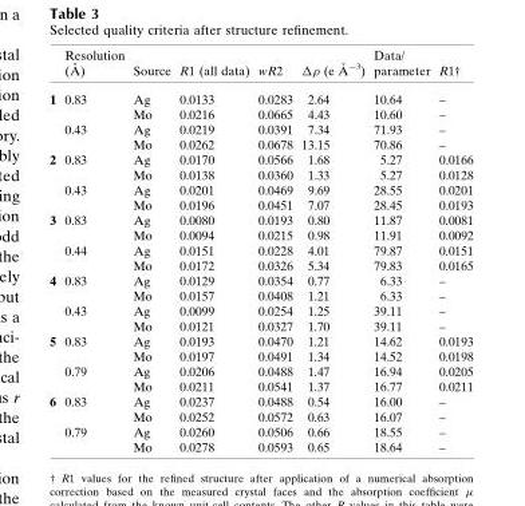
<table><thead><tr><td></td><td>Resolution (A˚ )</td><td>Source</td><td>R1 (all data)</td><td>wR2</td><td>�� (e A˚ �3)</td><td>Data/ parameter</td><td>R1†</td></tr></thead><tbody><tr><td rowspan="4">1</td><td rowspan="2">0.83</td><td>Ag</td><td>0.0133</td><td>0.0283</td><td>2.64</td><td>10.64</td><td>–</td></tr><tr><td>Mo</td><td>0.0216</td><td>0.0665</td><td>4.43</td><td>10.60</td><td>–</td></tr><tr><td rowspan="2">0.43</td><td>Ag</td><td>0.0219</td><td>0.0391</td><td>7.34</td><td>71.93</td><td>–</td></tr><tr><td>Mo</td><td>0.0262</td><td>0.0678</td><td>13.15</td><td>70.86</td><td>–</td></tr><tr><td rowspan="4">2</td><td rowspan="2">0.83</td><td>Ag</td><td>0.0170</td><td>0.0566</td><td>1.68</td><td>5.27</td><td>0.0166</td></tr><tr><td>Mo</td><td>0.0138</td><td>0.0360</td><td>1.33</td><td>5.27</td><td>0.0128</td></tr><tr><td rowspan="2">0.43</td><td>Ag</td><td>0.0201</td><td>0.0469</td><td>9.69</td><td>28.55</td><td>0.0201</td></tr><tr><td>Mo</td><td>0.0196</td><td>0.0451</td><td>7.07</td><td>28.45</td><td>0.0193</td></tr><tr><td rowspan="4">3</td><td rowspan="2">0.83</td><td>Ag</td><td>0.0080</td><td>0.0193</td><td>0.80</td><td>11.87</td><td>0.0081</td></tr><tr><td>Mo</td><td>0.0094</td><td>0.0215</td><td>0.98</td><td>11.91</td><td>0.0092</td></tr><tr><td rowspan="2">0.44</td><td>Ag</td><td>0.0151</td><td>0.0228</td><td>4.01</td><td>79.87</td><td>0.0151</td></tr><tr><td>Mo</td><td>0.0172</td><td>0.0326</td><td>5.34</td><td>79.83</td><td>0.0165</td></tr><tr><td rowspan="4">4</td><td rowspan="2">0.83</td><td>Ag</td><td>0.0129</td><td>0.0354</td><td>0.77</td><td>6.33</td><td>–</td></tr><tr><td>Mo</td><td>0.0157</td><td>0.0408</td><td>1.21</td><td>6.33</td><td>–</td></tr><tr><td rowspan="2">0.43</td><td>Ag</td><td>0.0099</td><td>0.0254</td><td>1.25</td><td>39.11</td><td>–</td></tr><tr><td>Mo</td><td>0.0121</td><td>0.0327</td><td>1.70</td><td>39.11</td><td>–</td></tr><tr><td rowspan="4">5</td><td rowspan="2">0.83</td><td>Ag</td><td>0.0193</td><td>0.0470</td><td>1.21</td><td>14.62</td><td>0.0193</td></tr><tr><td>Mo</td><td>0.0197</td><td>0.0491</td><td>1.34</td><td>14.52</td><td>0.0198</td></tr><tr><td rowspan="2">0.79</td><td>Ag</td><td>0.0206</td><td>0.0488</td><td>1.47</td><td>16.94</td><td>0.0205</td></tr><tr><td>Mo</td><td>0.0211</td><td>0.0541</td><td>1.37</td><td>16.77</td><td>0.0211</td></tr><tr><td rowspan="4">6</td><td rowspan="2">0.83</td><td>Ag</td><td>0.0237</td><td>0.0488</td><td>0.54</td><td>16.00</td><td>–</td></tr><tr><td>Mo</td><td>0.0252</td><td>0.0572</td><td>0.63</td><td>16.07</td><td>–</td></tr><tr><td rowspan="2">0.79</td><td>Ag</td><td>0.0260</td><td>0.0506</td><td>0.66</td><td>18.55</td><td>–</td></tr><tr><td>Mo</td><td>0.0278</td><td>0.0593</td><td>0.65</td><td>18.64</td><td>–</td></tr></tbody></table>